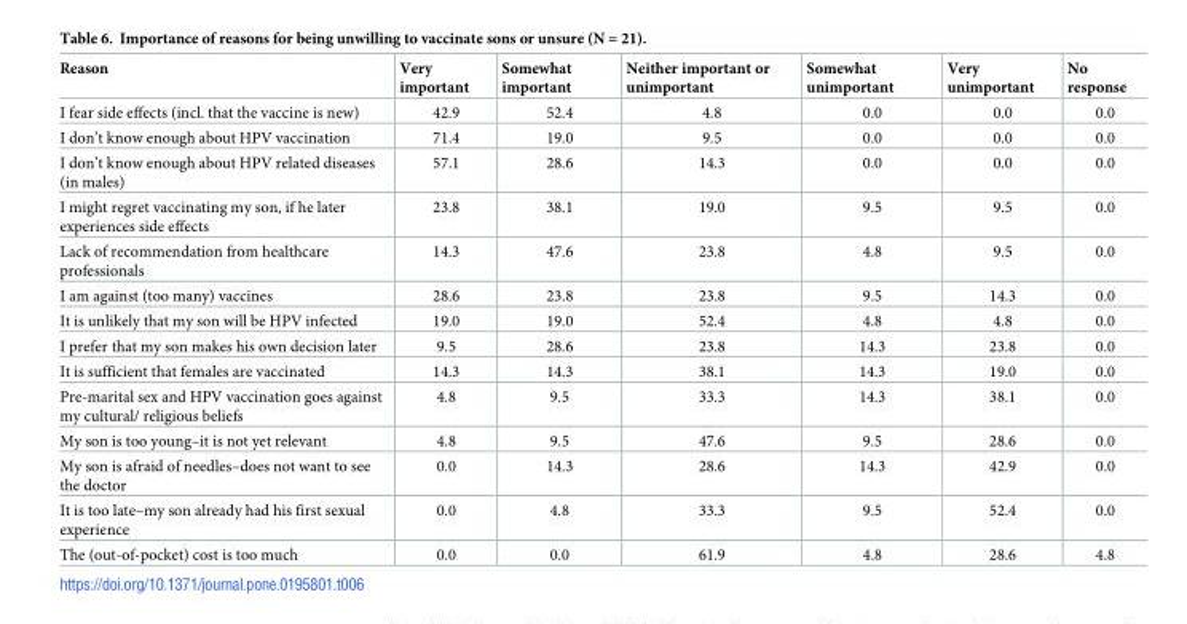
<table><thead><tr><td>Reason</td><td>Very important</td><td>Somewhat important</td><td>Neither important or unimportant</td><td>Somewhat unimportant</td><td>Very unimportant</td><td>No response</td></tr></thead><tbody><tr><td>I fear side effects (incl. that the vaccine is new)</td><td>42.9</td><td>52.4</td><td>4.8</td><td>0.0</td><td>0.0</td><td>0.0</td></tr><tr><td>I don’t know enough about HPV vaccination</td><td>71.4</td><td>19.0</td><td>9.5</td><td>0.0</td><td>0.0</td><td>0.0</td></tr><tr><td>I don’t know enough about HPV related diseases (in males)</td><td>57.1</td><td>28.6</td><td>14.3</td><td>0.0</td><td>0.0</td><td>0.0</td></tr><tr><td>I might regret vaccinating my son, if he later experiences side effects</td><td>23.8</td><td>38.1</td><td>19.0</td><td>9.5</td><td>9.5</td><td>0.0</td></tr><tr><td>Lack of recommendation from healthcare professionals</td><td>14.3</td><td>47.6</td><td>23.8</td><td>4.8</td><td>9.5</td><td>0.0</td></tr><tr><td>I am against (too many) vaccines</td><td>28.6</td><td>23.8</td><td>23.8</td><td>9.5</td><td>14.3</td><td>0.0</td></tr><tr><td>It is unlikely that my son will be HPV infected</td><td>19.0</td><td>19.0</td><td>52.4</td><td>4.8</td><td>4.8</td><td>0.0</td></tr><tr><td>I prefer that my son makes his own decision later</td><td>9.5</td><td>28.6</td><td>23.8</td><td>14.3</td><td>23.8</td><td>0.0</td></tr><tr><td>It is sufficient that females are vaccinated</td><td>14.3</td><td>14.3</td><td>38.1</td><td>14.3</td><td>19.0</td><td>0.0</td></tr><tr><td>Pre-marital sex and HPV vaccination goes against my cultural/ religious beliefs</td><td>4.8</td><td>9.5</td><td>33.3</td><td>14.3</td><td>38.1</td><td>0.0</td></tr><tr><td>My son is too young–it is not yet relevant</td><td>4.8</td><td>9.5</td><td>47.6</td><td>9.5</td><td>28.6</td><td>0.0</td></tr><tr><td>My son is afraid of needles–does not want to see the doctor</td><td>0.0</td><td>14.3</td><td>28.6</td><td>14.3</td><td>42.9</td><td>0.0</td></tr><tr><td>It is too late–my son already had his first sexual experience</td><td>0.0</td><td>4.8</td><td>33.3</td><td>9.5</td><td>52.4</td><td>0.0</td></tr><tr><td>The (out-of-pocket) cost is too much</td><td>0.0</td><td>0.0</td><td>61.9</td><td>4.8</td><td>28.6</td><td>4.8</td></tr></tbody></table>